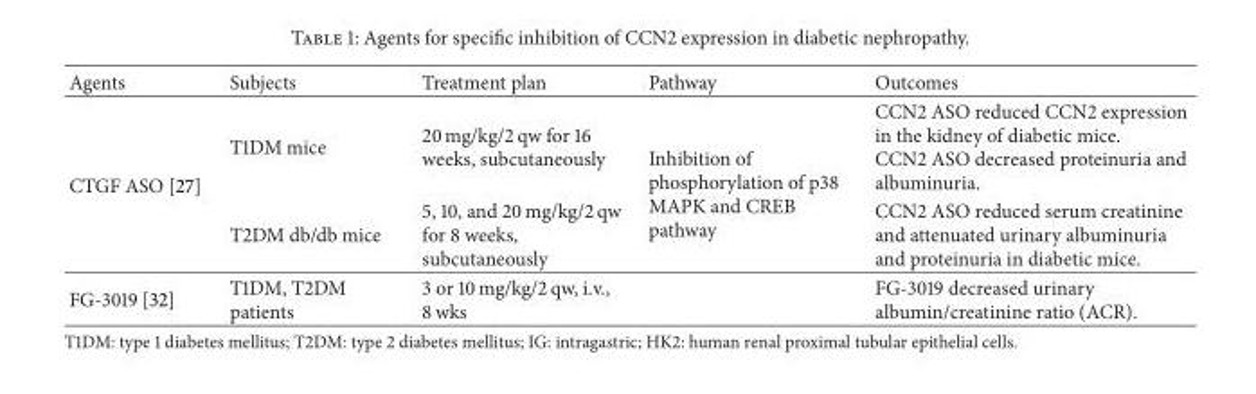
<table><thead><tr><td>Agents</td><td>Subjects</td><td>Treatment plan</td><td>Pathway</td><td>Outcomes</td></tr></thead><tbody><tr><td rowspan="2">CTGF ASO [27]</td><td>T1DM mice</td><td>20 mg/kg/2 qw for 16 weeks, subcutaneously</td><td rowspan="2">Inhibition of phosphorylation of p38 MAPK and CREB pathway</td><td>CCN2 ASO reduced CCN2 expression in the kidney of diabetic mice. CCN2 ASO decreased proteinuria and albuminuria.</td></tr><tr><td>T2DM db/db mice</td><td>5, 10, and 20 mg/kg/2 qw for 8 weeks, subcutaneously</td><td>CCN2 ASO reduced serum creatinine and attenuated urinary albuminuria and proteinuria in diabetic mice.</td></tr><tr><td>FG-3019 [32]</td><td>T1DM, T2DM patients</td><td>3 or 10 mg/kg/2 qw, i.v., 8 wks</td><td></td><td>FG-3019 decreased urinary albumin/creatinine ratio (ACR).</td></tr></tbody></table>